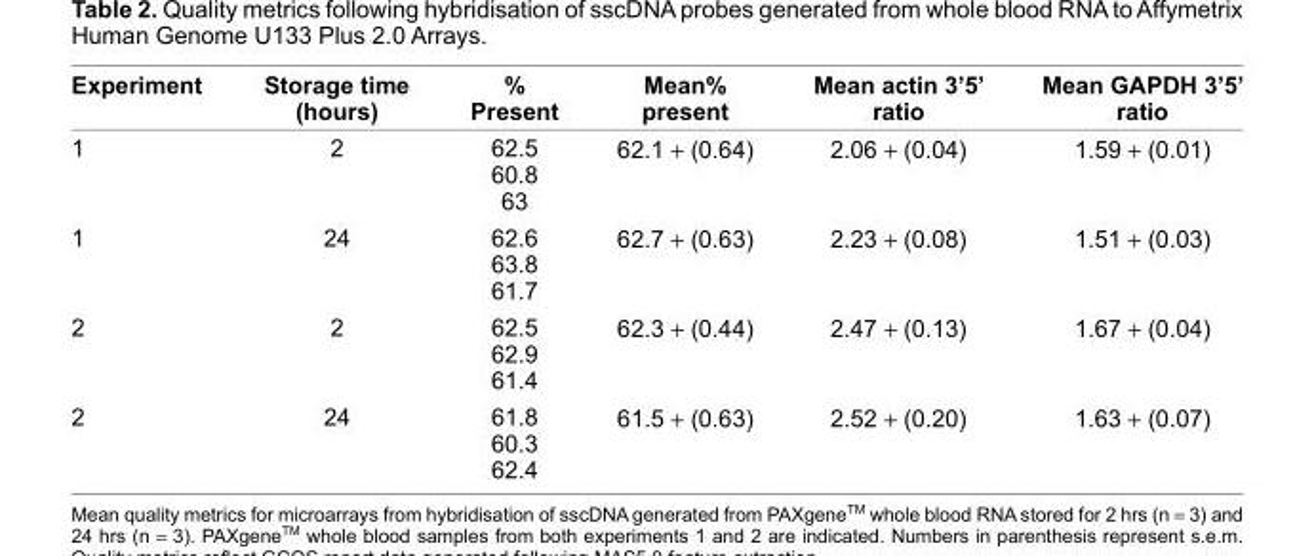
<table><thead><tr><td>Experiment</td><td>Storage time (hours)</td><td>% Present</td><td>Mean% present</td><td>Mean actin 3’5’ ratio</td><td>Mean GAPDH 3’5’ ratio</td></tr></thead><tbody><tr><td>1</td><td>2</td><td>62.5 60.8 63</td><td>62.1 + (0.64)</td><td>2.06 + (0.04)</td><td>1.59 + (0.01)</td></tr><tr><td>1</td><td>24</td><td>62.6 63.8 61.7</td><td>62.7 + (0.63)</td><td>2.23 + (0.08)</td><td>1.51 + (0.03)</td></tr><tr><td>2</td><td>2</td><td>62.5 62.9 61.4</td><td>62.3 + (0.44)</td><td>2.47 + (0.13)</td><td>1.67 + (0.04)</td></tr><tr><td>2</td><td>24</td><td>61.8 60.3 62.4</td><td>61.5 + (0.63)</td><td>2.52 + (0.20)</td><td>1.63 + (0.07)</td></tr></tbody></table>